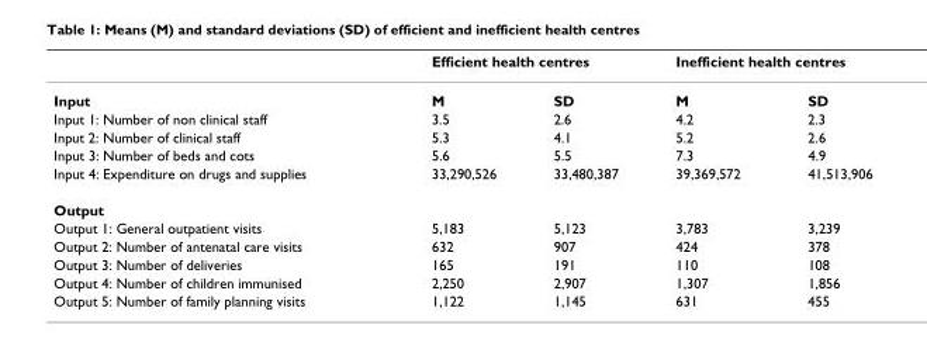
<table><thead><tr><td rowspan="2">Input</td><td colspan="2">Efficient health centres</td><td colspan="2">Inefficient health centres</td></tr><tr><td>M</td><td>SD</td><td>M</td><td>SD</td></tr></thead><tbody><tr><td>Input 1: Number of non clinical staff</td><td>3.5</td><td>2.6</td><td>4.2</td><td>2.3</td></tr><tr><td>Input 2: Number of clinical staff</td><td>5.3</td><td>4.1</td><td>5.2</td><td>2.6</td></tr><tr><td>Input 3: Number of beds and cots</td><td>5.6</td><td>5.5</td><td>7.3</td><td>4.9</td></tr><tr><td>Input 4: Expenditure on drugs and supplies</td><td>33,290,526</td><td>33,480,387</td><td>39,369,572</td><td>41,513,906</td></tr><tr><td colspan="5">Output</td></tr><tr><td>Output 1: General outpatient visits</td><td>5,183</td><td>5,123</td><td>3,783</td><td>3,239</td></tr><tr><td>Output 2: Number of antenatal care visits</td><td>632</td><td>907</td><td>424</td><td>378</td></tr><tr><td>Output 3: Number of deliveries</td><td>165</td><td>191</td><td>110</td><td>108</td></tr><tr><td>Output 4: Number of children immunised</td><td>2,250</td><td>2,907</td><td>1,307</td><td>1,856</td></tr><tr><td>Output 5: Number of family planning visits</td><td>1,122</td><td>1,145</td><td>631</td><td>455</td></tr></tbody></table>